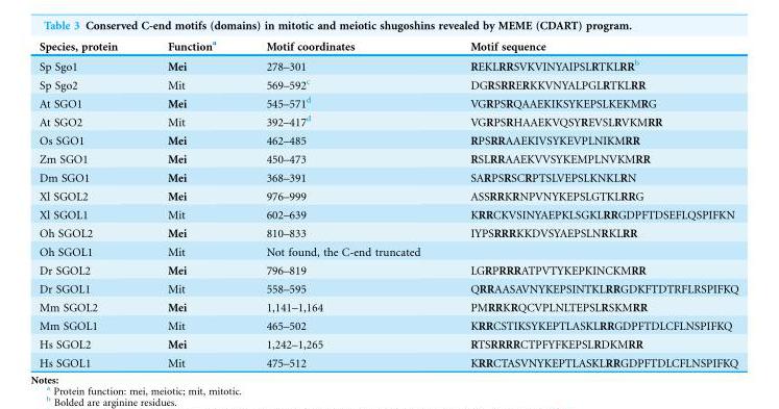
<table><thead><tr><td>Species, protein</td><td>Function<sup>a</sup></td><td>Motif coordinates</td><td>Motif sequence</td></tr></thead><tbody><tr><td>Sp Sgo1</td><td>Mei</td><td>278–301</td><td>REKLRRSVKVINYAIPSLRTKLRR<sup>b</sup></td></tr><tr><td>Sp Sgo2</td><td>Mit</td><td>569–592<sup>c</sup></td><td>DGRSRRERKKVNYALPGLRTKLRR</td></tr><tr><td>At SGO1</td><td>Mei</td><td>545–571<sup>d</sup></td><td>VGRPSRQAAEKIKSYKEPSLKEKMRG</td></tr><tr><td>At SGO2</td><td>Mit</td><td>392–417<sup>d</sup></td><td>VGRPSRHAAEKVQSYREVSLRVKMRR</td></tr><tr><td>Os SGO1</td><td>Mei</td><td>462–485</td><td>RPSRRAAEKIVSYKEVPLNIKMRR</td></tr><tr><td>Zm SGO1</td><td>Mei</td><td>450–473</td><td>RSLRRAAEKVVSYKEMPLNVKMRR</td></tr><tr><td>Dm SGO1</td><td>Mei</td><td>368–391</td><td>SARPSRSCRPTSLVEPSLKNKLRN</td></tr><tr><td>Xl SGOL2</td><td>Mei</td><td>976–999</td><td>ASSRRKRNPVNYKEPSLGTKLRRG</td></tr><tr><td>Xl SGOL1</td><td>Mit</td><td>602–639</td><td>KRRCKVSINYAEPKLSGKLRRGDPFTDSEFLQSPIFKN</td></tr><tr><td>Oh SGOL2</td><td>Mei</td><td>810–833</td><td>IYPSRRRKKDVSYAEPSLNRKLRR</td></tr><tr><td>Oh SGOL1</td><td>Mit</td><td>Not found, the C-end truncated</td><td></td></tr><tr><td>Dr SGOL2</td><td>Mei</td><td>796–819</td><td>LGRPRRRATPVTYKEPKINCKMRR</td></tr><tr><td>Dr SGOL1</td><td>Mit</td><td>558–595</td><td>QRRAASAVNYKEPSINTKLRRGDKFTDTRFLRSPIFKQ</td></tr><tr><td>Mm SGOL2</td><td>Mei</td><td>1,141–1,164</td><td>PMRRKRQCVPLNLTEPSLRSKMRR</td></tr><tr><td>Mm SGOL1</td><td>Mit</td><td>465–502</td><td>KRRCSTIKSYKEPTLASKLRRGDPFTDLCFLNSPIFKQ</td></tr><tr><td>Hs SGOL2</td><td>Mei</td><td>1,242–1,265</td><td>RTSRRRRCTPFYFKEPSLRDKMRR</td></tr><tr><td>Hs SGOL1</td><td>Mit</td><td>475–512</td><td>KRRCTASVNYKEPTLASKLRRGDPFTDLCFLNSPIFKQ</td></tr></tbody></table>